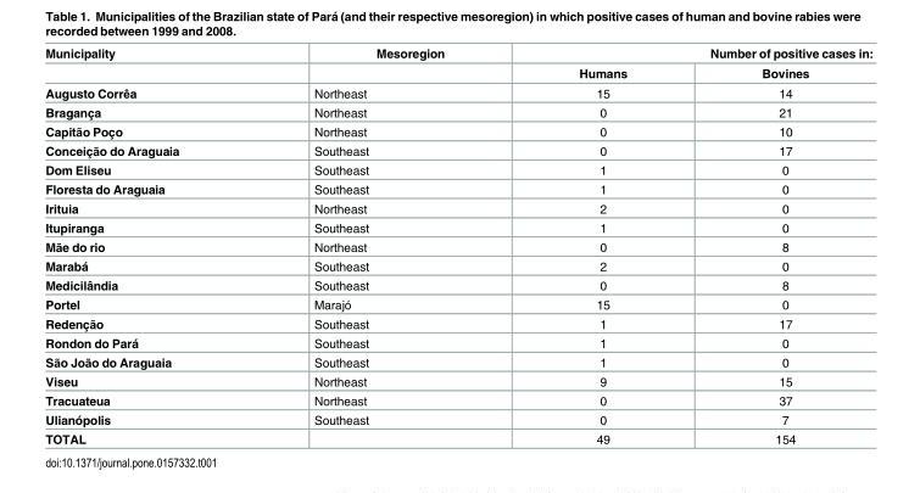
<table><thead><tr><td rowspan="2">Municipality</td><td rowspan="2">Mesoregion</td><td colspan="2">Number of positive cases in:</td></tr><tr><td>Humans</td><td>Bovines</td></tr></thead><tbody><tr><td>Augusto Corrêa</td><td>Northeast</td><td>15</td><td>14</td></tr><tr><td>Bragança</td><td>Northeast</td><td>0</td><td>21</td></tr><tr><td>Capitão Poço</td><td>Northeast</td><td>0</td><td>10</td></tr><tr><td>Conceição do Araguaia</td><td>Southeast</td><td>0</td><td>17</td></tr><tr><td>Dom Eliseu</td><td>Southeast</td><td>1</td><td>0</td></tr><tr><td>Floresta do Araguaia</td><td>Southeast</td><td>1</td><td>0</td></tr><tr><td>Irituia</td><td>Northeast</td><td>2</td><td>0</td></tr><tr><td>Itupiranga</td><td>Southeast</td><td>1</td><td>0</td></tr><tr><td>Mãe do rio</td><td>Northeast</td><td>0</td><td>8</td></tr><tr><td>Marabá</td><td>Southeast</td><td>2</td><td>0</td></tr><tr><td>Medicilândia</td><td>Southeast</td><td>0</td><td>8</td></tr><tr><td>Portel</td><td>Marajó</td><td>15</td><td>0</td></tr><tr><td>Redenção</td><td>Southeast</td><td>1</td><td>17</td></tr><tr><td>Rondon do Pará</td><td>Southeast</td><td>1</td><td>0</td></tr><tr><td>São João do Araguaia</td><td>Southeast</td><td>1</td><td>0</td></tr><tr><td>Viseu</td><td>Northeast</td><td>9</td><td>15</td></tr><tr><td>Tracuateua</td><td>Northeast</td><td>0</td><td>37</td></tr><tr><td>Ulianópolis</td><td>Southeast</td><td>0</td><td>7</td></tr><tr><td>TOTAL</td><td></td><td>49</td><td>154</td></tr></tbody></table>